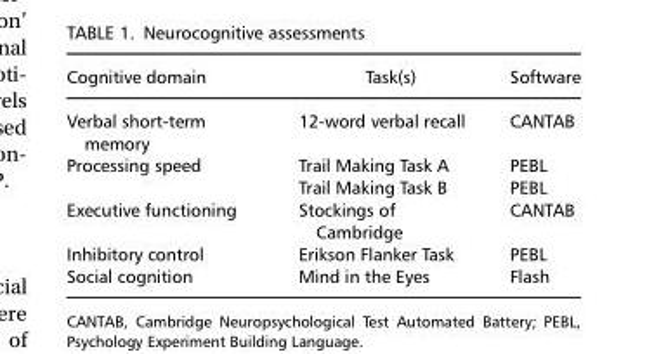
<table><thead><tr><td>Cognitive domain</td><td>Task(s)</td><td>Software</td></tr></thead><tbody><tr><td>Verbal short-term memory</td><td>12-word verbal recall</td><td>CANTAB</td></tr><tr><td rowspan="2">Processing speed</td><td>Trail Making Task A</td><td>PEBL</td></tr><tr><td>Trail Making Task B</td><td>PEBL</td></tr><tr><td>Executive functioning</td><td>Stockings of Cambridge</td><td>CANTAB</td></tr><tr><td>Inhibitory control</td><td>Erikson Flanker Task</td><td>PEBL</td></tr><tr><td>Social cognition</td><td>Mind in the Eyes</td><td>Flash</td></tr></tbody></table>